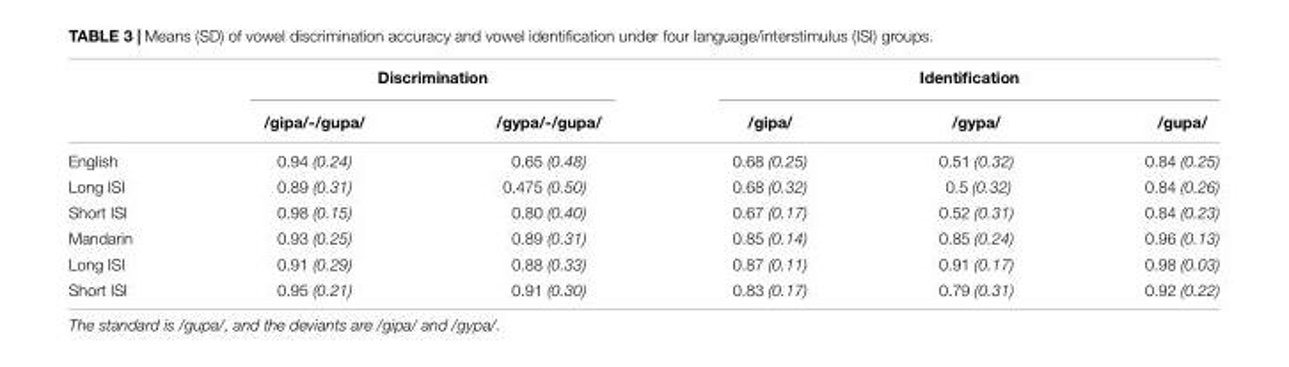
<table><thead><tr><td rowspan="2"></td><td colspan="2">Discrimination</td><td colspan="3">Identification</td></tr><tr><td>/gipa/-/gupa/</td><td>/gypa/-/gupa/</td><td>/gipa/</td><td>/gypa/</td><td>/gupa/</td></tr></thead><tbody><tr><td>English</td><td>0.94 (0.24)</td><td>0.65 (0.48)</td><td>0.68 (0.25)</td><td>0.51 (0.32)</td><td>0.84 (0.25)</td></tr><tr><td>Long ISI</td><td>0.89 (0.31)</td><td>0.475 (0.50)</td><td>0.68 (0.32)</td><td>0.5 (0.32)</td><td>0.84 (0.26)</td></tr><tr><td>Short ISI</td><td>0.98 (0.15)</td><td>0.80 (0.40)</td><td>0.67 (0.17)</td><td>0.52 (0.31)</td><td>0.84 (0.23)</td></tr><tr><td>Mandarin</td><td>0.93 (0.25)</td><td>0.89 (0.31)</td><td>0.85 (0.14)</td><td>0.85 (0.24)</td><td>0.96 (0.13)</td></tr><tr><td>Long ISI</td><td>0.91 (0.29)</td><td>0.88 (0.33)</td><td>0.87 (0.11)</td><td>0.91 (0.17)</td><td>0.98 (0.03)</td></tr><tr><td>Short ISI</td><td>0.95 (0.21)</td><td>0.91 (0.30)</td><td>0.83 (0.17)</td><td>0.79 (0.31)</td><td>0.92 (0.22)</td></tr></tbody></table>